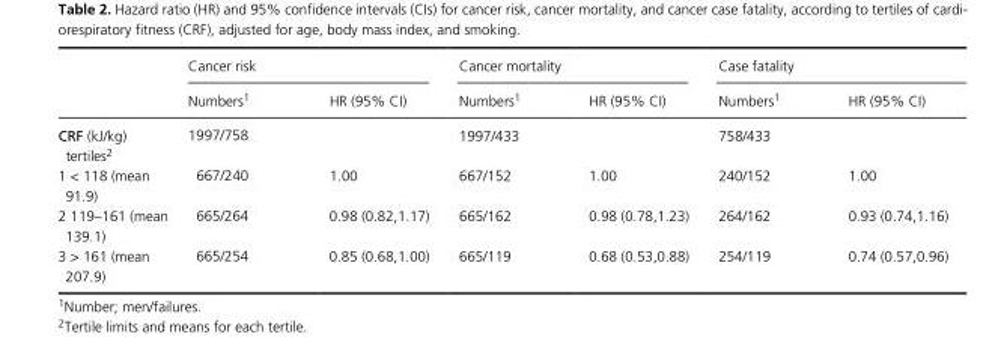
<table><thead><tr><td rowspan="2"></td><td colspan="2">Cancer risk</td><td colspan="2">Cancer mortality</td><td colspan="2">Case fatality</td></tr><tr><td>Numbers1</td><td>HR (95% CI)</td><td>Numbers1</td><td>HR (95% CI)</td><td>Numbers1</td><td>HR (95% CI)</td></tr></thead><tbody><tr><td>CRF (kJ/kg) tertiles2</td><td>1997/758</td><td></td><td>1997/433</td><td></td><td>758/433</td><td></td></tr><tr><td>1 &lt; 118 (mean 91.9)</td><td>667/240</td><td>1.00</td><td>667/152</td><td>1.00</td><td>240/152</td><td>1.00</td></tr><tr><td>2 119–161 (mean 139.1)</td><td>665/264</td><td>0.98 (0.82,1.17)</td><td>665/162</td><td>0.98 (0.78,1.23)</td><td>264/162</td><td>0.93 (0.74,1.16)</td></tr><tr><td>3 &gt; 161 (mean 207.9)</td><td>665/254</td><td>0.85 (0.68,1.00)</td><td>665/119</td><td>0.68 (0.53,0.88)</td><td>254/119</td><td>0.74 (0.57,0.96)</td></tr></tbody></table>